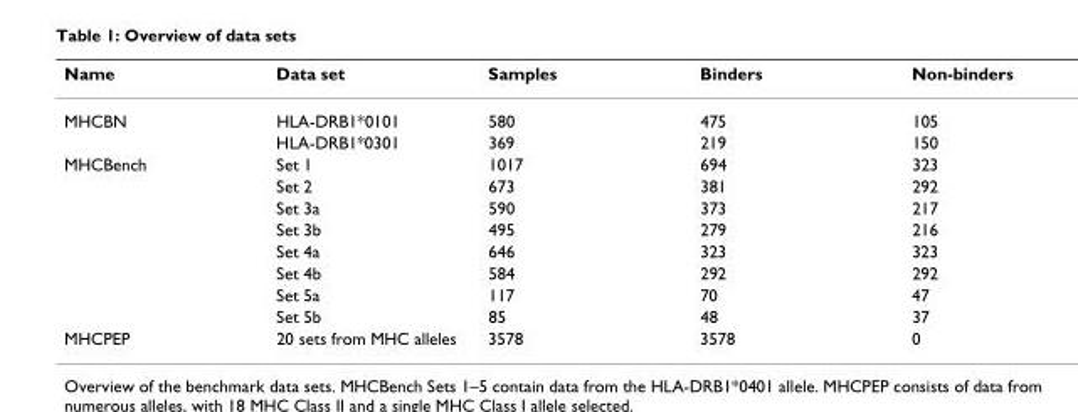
<table><thead><tr><td>Name</td><td>Data set</td><td>Samples</td><td>Binders</td><td>Non-binders</td></tr></thead><tbody><tr><td rowspan="2">MHCBN</td><td>HLA-DRB1*0101</td><td>580</td><td>475</td><td>105</td></tr><tr><td>HLA-DRB1*0301</td><td>369</td><td>219</td><td>150</td></tr><tr><td rowspan="8">MHCBench</td><td>Set 1</td><td>1017</td><td>694</td><td>323</td></tr><tr><td>Set 2</td><td>673</td><td>381</td><td>292</td></tr><tr><td>Set 3a</td><td>590</td><td>373</td><td>217</td></tr><tr><td>Set 3b</td><td>495</td><td>279</td><td>216</td></tr><tr><td>Set 4a</td><td>646</td><td>323</td><td>323</td></tr><tr><td>Set 4b</td><td>584</td><td>292</td><td>292</td></tr><tr><td>Set 5a</td><td>117</td><td>70</td><td>47</td></tr><tr><td>Set 5b</td><td>85</td><td>48</td><td>37</td></tr><tr><td>MHCPEP</td><td>20 sets from MHC alleles</td><td>3578</td><td>3578</td><td>0</td></tr></tbody></table>